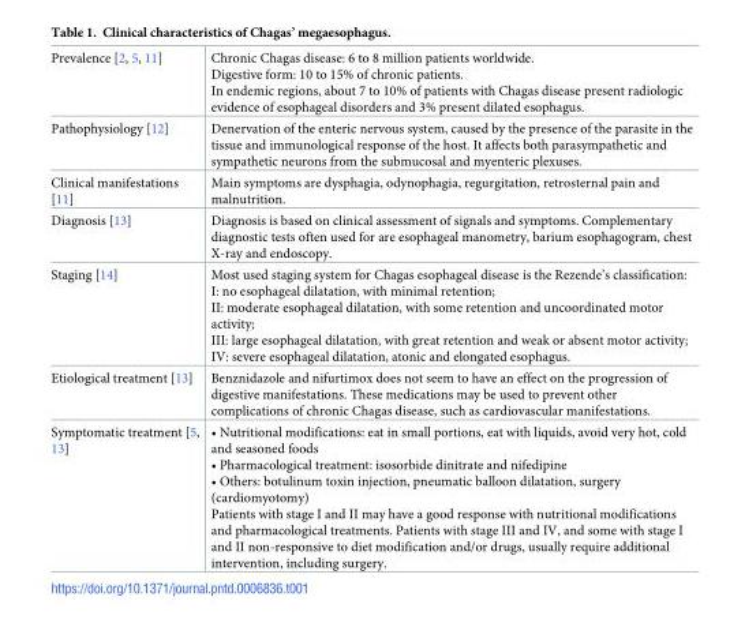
<table><tbody><tr><td>Prevalence [2, 5, 11]</td><td>Chronic Chagas disease: 6 to 8 million patients worldwide. Digestive form: 10 to 15% of chronic patients. In endemic regions, about 7 to 10% of patients with Chagas disease present radiologic evidence of esophageal disorders and 3% present dilated esophagus.</td></tr><tr><td>Pathophysiology [12]</td><td>Denervation of the enteric nervous system, caused by the presence of the parasite in the tissue and immunological response of the host. It affects both parasympathetic and sympathetic neurons from the submucosal and myenteric plexuses.</td></tr><tr><td>Clinical manifestations [11]</td><td>Main symptoms are dysphagia, odynophagia, regurgitation, retrosternal pain and malnutrition.</td></tr><tr><td>Diagnosis [13]</td><td>Diagnosis is based on clinical assessment of signals and symptoms. Complementary diagnostic tests often used for are esophageal manometry, barium esophagogram, chest X-ray and endoscopy.</td></tr><tr><td>Staging [14]</td><td>Most used staging system for Chagas esophageal disease is the Rezende’s classification: I: no esophageal dilatation, with minimal retention; II: moderate esophageal dilatation, with some retention and uncoordinated motor activity; III: large esophageal dilatation, with great retention and weak or absent motor activity; IV: severe esophageal dilatation, atonic and elongated esophagus.</td></tr><tr><td>Etiological treatment [13]</td><td>Benznidazole and nifurtimox does not seem to have an effect on the progression of digestive manifestations. These medications may be used to prevent other complications of chronic Chagas disease, such as cardiovascular manifestations.</td></tr><tr><td>Symptomatic treatment [5, 13]</td><td>• Nutritional modifications: eat in small portions, eat with liquids, avoid very hot, cold and seasoned foods • Pharmacological treatment: isosorbide dinitrate and nifedipine • Others: botulinum toxin injection, pneumatic balloon dilatation, surgery (cardiomyotomy) Patients with stage I and II may have a good response with nutritional modifications and pharmacological treatments. Patients with stage III and IV, and some with stage I and II non-responsive to diet modification and/or drugs, usually require additional intervention, including surgery.</td></tr></tbody></table>